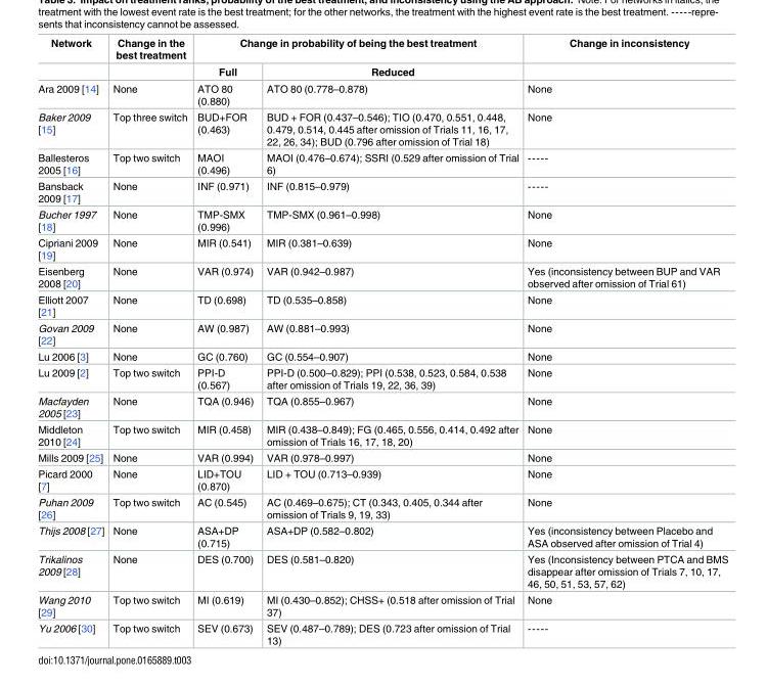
<table><thead><tr><td rowspan="2">Network</td><td rowspan="2">Change in the best treatment</td><td colspan="2">Change in probability of being the best treatment</td><td rowspan="2">Change in inconsistency</td></tr><tr><td>Full</td><td>Reduced</td></tr></thead><tbody><tr><td>Ara 2009 [14]</td><td>None</td><td>ATO 80 (0.880)</td><td>ATO 80 (0.778–0.878)</td><td>None</td></tr><tr><td>Baker 2009 [15]</td><td>Top three switch</td><td>BUD+FOR (0.463)</td><td>BUD + FOR (0.437–0.546); TIO (0.470, 0.551, 0.448, 0.479, 0.514, 0.445 after omission of Trials 11, 16, 17, 22, 26, 34); BUD (0.796 after omission of Trial 18)</td><td>None</td></tr><tr><td>Ballesteros 2005 [16]</td><td>Top two switch</td><td>MAOI (0.496)</td><td>MAOI (0.476–0.674); SSRI (0.529 after omission of Trial 6)</td><td>-----</td></tr><tr><td>Bansback 2009 [17]</td><td>None</td><td>INF (0.971)</td><td>INF (0.815–0.979)</td><td>-----</td></tr><tr><td>Bucher 1997 [18]</td><td>None</td><td>TMP-SMX (0.996)</td><td>TMP-SMX (0.961–0.998)</td><td>None</td></tr><tr><td>Cipriani 2009 [19]</td><td>None</td><td>MIR (0.541)</td><td>MIR (0.381–0.639)</td><td>None</td></tr><tr><td>Eisenberg 2008 [20]</td><td>None</td><td>VAR (0.974)</td><td>VAR (0.942–0.987)</td><td>Yes (inconsistency between BUP and VAR observed after omission of Trial 61)</td></tr><tr><td>Elliott 2007 [21]</td><td>None</td><td>TD (0.698)</td><td>TD (0.535–0.858)</td><td>None</td></tr><tr><td>Govan 2009 [22]</td><td>None</td><td>AW (0.987)</td><td>AW (0.881–0.993)</td><td>None</td></tr><tr><td>Lu 2006 [3]</td><td>None</td><td>GC (0.760)</td><td>GC (0.554–0.907)</td><td>None</td></tr><tr><td>Lu 2009 [2]</td><td>Top two switch</td><td>PPI-D (0.567)</td><td>PPI-D (0.500–0.829); PPI (0.538, 0.523, 0.584, 0.538 after omission of Trials 19, 22, 36, 39)</td><td>None</td></tr><tr><td>Macfayden 2005 [23]</td><td>None</td><td>TQA (0.946)</td><td>TQA (0.855–0.967)</td><td>None</td></tr><tr><td>Middleton 2010 [24]</td><td>Top two switch</td><td>MIR (0.458)</td><td>MIR (0.438–0.849); FG (0.465, 0.556, 0.414, 0.492 after omission of Trials 16, 17, 18, 20)</td><td>None</td></tr><tr><td>Mills 2009 [25]</td><td>None</td><td>VAR (0.994)</td><td>VAR (0.978–0.997)</td><td>None</td></tr><tr><td>Picard 2000 [7]</td><td>None</td><td>LID+TOU (0.870)</td><td>LID + TOU (0.713–0.939)</td><td>None</td></tr><tr><td>Puhan 2009 [26]</td><td>Top two switch</td><td>AC (0.545)</td><td>AC (0.469–0.675); CT (0.343, 0.405, 0.344 after omission of Trials 9, 19, 33)</td><td>None</td></tr><tr><td>Thijs 2008 [27]</td><td>None</td><td>ASA+DP (0.715)</td><td>ASA+DP (0.582–0.802)</td><td>Yes (inconsistency between Placebo and ASA observed after omission of Trial 4)</td></tr><tr><td>Trikalinos 2009 [28]</td><td>None</td><td>DES (0.700)</td><td>DES (0.581–0.820)</td><td>Yes (Inconsistency between PTCA and BMS disappear after omission of Trials 7, 10, 17, 46, 50, 51, 53, 57, 62)</td></tr><tr><td>Wang 2010 [29]</td><td>Top two switch</td><td>MI (0.619)</td><td>MI (0.430–0.852); CHSS+ (0.518 after omission of Trial 37)</td><td>None</td></tr><tr><td>Yu 2006 [30]</td><td>Top two switch</td><td>SEV (0.673)</td><td>SEV (0.487–0.789); DES (0.723 after omission of Trial 13)</td><td>-----</td></tr></tbody></table>